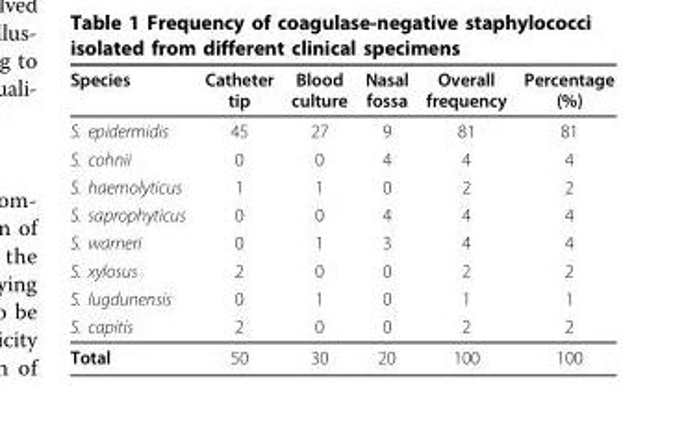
<table><thead><tr><td>Species</td><td>Catheter tip</td><td>Blood culture</td><td>Nasal fossa</td><td>Overall frequency</td><td>Percentage (%)</td></tr></thead><tbody><tr><td>S. epidermidis</td><td>45</td><td>27</td><td>9</td><td>81</td><td>81</td></tr><tr><td>S. cohnii</td><td>0</td><td>0</td><td>4</td><td>4</td><td>4</td></tr><tr><td>S. haemolyticus</td><td>1</td><td>1</td><td>0</td><td>2</td><td>2</td></tr><tr><td>S. saprophyticus</td><td>0</td><td>0</td><td>4</td><td>4</td><td>4</td></tr><tr><td>S. warneri</td><td>0</td><td>1</td><td>3</td><td>4</td><td>4</td></tr><tr><td>S. xylosus</td><td>2</td><td>0</td><td>0</td><td>2</td><td>2</td></tr><tr><td>S. lugdunensis</td><td>0</td><td>1</td><td>0</td><td>1</td><td>1</td></tr><tr><td>S. capitis</td><td>2</td><td>0</td><td>0</td><td>2</td><td>2</td></tr><tr><td>Total</td><td>50</td><td>30</td><td>20</td><td>100</td><td>100</td></tr></tbody></table>